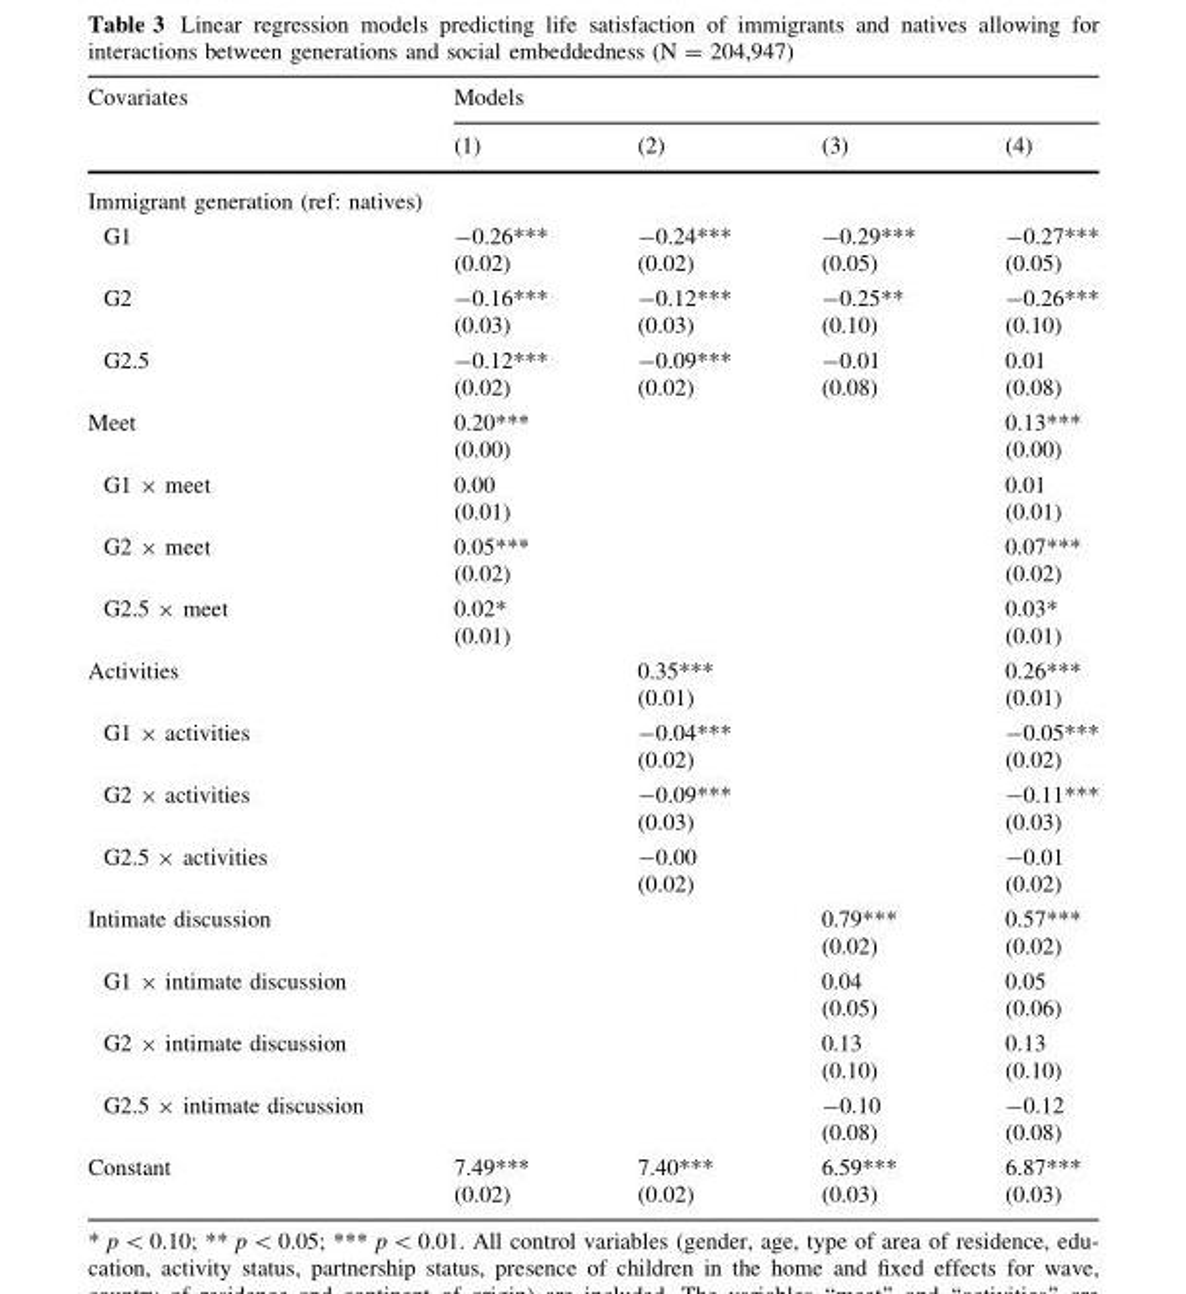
<table><thead><tr><td rowspan="2">Covariates</td><td colspan="4">Models</td></tr><tr><td>(1)</td><td>(2)</td><td>(3)</td><td>(4)</td></tr></thead><tbody><tr><td colspan="5">Immigrant generation (ref: natives)</td></tr><tr><td>G1</td><td>-0.26*** (0.02)</td><td>-0.24*** (0.02)</td><td>-0.29*** (0.05)</td><td>-0.27*** (0.05)</td></tr><tr><td>G2</td><td>-0.16*** (0.03)</td><td>-0.12*** (0.03)</td><td>-0.25** (0.10)</td><td>-0.26*** (0.10)</td></tr><tr><td>G2.5</td><td>-0.12*** (0.02)</td><td>-0.09*** (0.02)</td><td>-0.01 (0.08)</td><td>0.01 (0.08)</td></tr><tr><td>Meet</td><td>0.20*** (0.00)</td><td></td><td></td><td>0.13*** (0.00)</td></tr><tr><td>G1 × meet</td><td>0.00 (0.01)</td><td></td><td></td><td>0.01 (0.01)</td></tr><tr><td>G2 × meet</td><td>0.05*** (0.02)</td><td></td><td></td><td>0.07*** (0.02)</td></tr><tr><td>G2.5 × meet</td><td>0.02* (0.01)</td><td></td><td></td><td>0.03* (0.01)</td></tr><tr><td>Activities</td><td></td><td>0.35*** (0.01)</td><td></td><td>0.26*** (0.01)</td></tr><tr><td>G1 × activities</td><td></td><td>-0.04*** (0.02)</td><td></td><td>-0.05*** (0.02)</td></tr><tr><td>G2 × activities</td><td></td><td>-0.09*** (0.03)</td><td></td><td>-0.11*** (0.03)</td></tr><tr><td>G2.5 × activities</td><td></td><td>-0.00 (0.02)</td><td></td><td>-0.01 (0.02)</td></tr><tr><td>Intimate discussion</td><td></td><td></td><td>0.79*** (0.02)</td><td>0.57*** (0.02)</td></tr><tr><td>G1 × intimate discussion</td><td></td><td></td><td>0.04 (0.05)</td><td>0.05 (0.06)</td></tr><tr><td>G2 × intimate discussion</td><td></td><td></td><td>0.13 (0.10)</td><td>0.13 (0.10)</td></tr><tr><td>G2.5 × intimate discussion</td><td></td><td></td><td>-0.10 (0.08)</td><td>-0.12 (0.08)</td></tr><tr><td>Constant</td><td>7.49*** (0.02)</td><td>7.40*** (0.02)</td><td>6.59*** (0.03)</td><td>6.87*** (0.03)</td></tr></tbody></table>